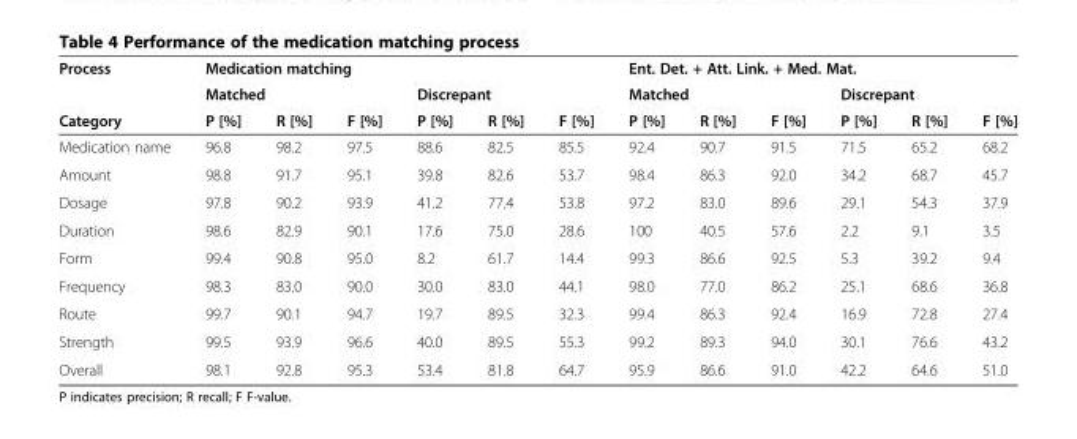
<table><thead><tr><td rowspan="3">Process Category</td><td colspan="6">Medication matching</td><td colspan="6">Ent. Det. + Att. Link. + Med. Mat.</td></tr><tr><td colspan="3">Matched</td><td colspan="3">Discrepant</td><td colspan="3">Matched</td><td colspan="3">Discrepant</td></tr><tr><td>P [%]</td><td>R [%]</td><td>F [%]</td><td>P [%]</td><td>R [%]</td><td>F [%]</td><td>P [%]</td><td>R [%]</td><td>F [%]</td><td>P [%]</td><td>R [%]</td><td>F [%]</td></tr></thead><tbody><tr><td>Medication name</td><td>96.8</td><td>98.2</td><td>97.5</td><td>88.6</td><td>82.5</td><td>85.5</td><td>92.4</td><td>90.7</td><td>91.5</td><td>71.5</td><td>65.2</td><td>68.2</td></tr><tr><td>Amount</td><td>98.8</td><td>91.7</td><td>95.1</td><td>39.8</td><td>82.6</td><td>53.7</td><td>98.4</td><td>86.3</td><td>92.0</td><td>34.2</td><td>68.7</td><td>45.7</td></tr><tr><td>Dosage</td><td>97.8</td><td>90.2</td><td>93.9</td><td>41.2</td><td>77.4</td><td>53.8</td><td>97.2</td><td>83.0</td><td>89.6</td><td>29.1</td><td>54.3</td><td>37.9</td></tr><tr><td>Duration</td><td>98.6</td><td>82.9</td><td>90.1</td><td>17.6</td><td>75.0</td><td>28.6</td><td>100</td><td>40.5</td><td>57.6</td><td>2.2</td><td>9.1</td><td>3.5</td></tr><tr><td>Form</td><td>99.4</td><td>90.8</td><td>95.0</td><td>8.2</td><td>61.7</td><td>14.4</td><td>99.3</td><td>86.6</td><td>92.5</td><td>5.3</td><td>39.2</td><td>9.4</td></tr><tr><td>Frequency</td><td>98.3</td><td>83.0</td><td>90.0</td><td>30.0</td><td>83.0</td><td>44.1</td><td>98.0</td><td>77.0</td><td>86.2</td><td>25.1</td><td>68.6</td><td>36.8</td></tr><tr><td>Route</td><td>99.7</td><td>90.1</td><td>94.7</td><td>19.7</td><td>89.5</td><td>32.3</td><td>99.4</td><td>86.3</td><td>92.4</td><td>16.9</td><td>72.8</td><td>27.4</td></tr><tr><td>Strength</td><td>99.5</td><td>93.9</td><td>96.6</td><td>40.0</td><td>89.5</td><td>55.3</td><td>99.2</td><td>89.3</td><td>94.0</td><td>30.1</td><td>76.6</td><td>43.2</td></tr><tr><td>Overall</td><td>98.1</td><td>92.8</td><td>95.3</td><td>53.4</td><td>81.8</td><td>64.7</td><td>95.9</td><td>86.6</td><td>91.0</td><td>42.2</td><td>64.6</td><td>51.0</td></tr></tbody></table>